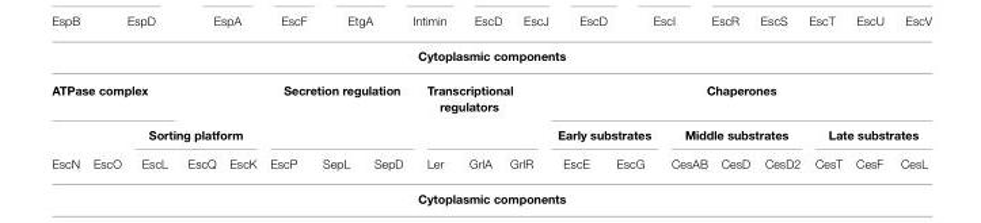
<table><thead><tr><td colspan="19">Cytoplasmic components</td></tr><tr><td colspan="3">ATPase complex</td><td></td><td></td><td colspan="3">Secretion regulation</td><td colspan="3">Transcriptional regulators</td><td colspan="8">Chaperones</td></tr><tr><td rowspan="2">EscN</td><td rowspan="2">EscO</td><td colspan="3">Sorting platform</td><td rowspan="2">EscP</td><td rowspan="2">SepL</td><td rowspan="2">SepD</td><td rowspan="2">Ler</td><td rowspan="2">GrlA</td><td rowspan="2">GrlR</td><td colspan="2">Early substrates</td><td colspan="3">Middle substrates</td><td colspan="3">Late substrates</td></tr><tr><td>EscL</td><td>EscQ</td><td>EscK</td><td>EscE</td><td>EscG</td><td>CesAB</td><td>CesD</td><td>CesD2</td><td>CesT</td><td>CesF</td><td>CesL</td></tr></thead><tbody></tbody></table>